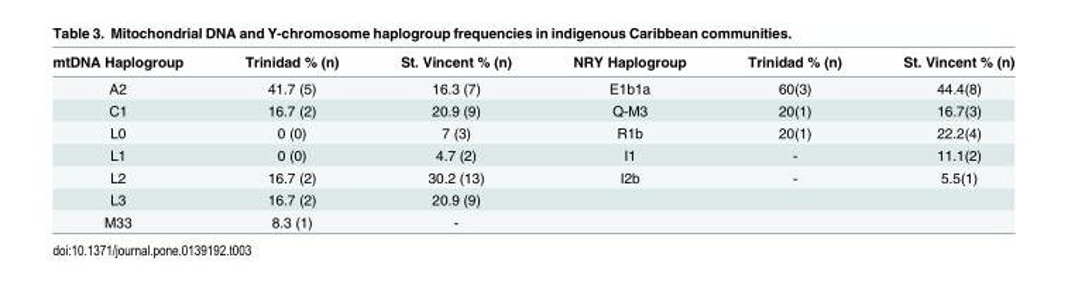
<table><thead><tr><td>mtDNA Haplogroup</td><td>Trinidad % (n)</td><td>St. Vincent % (n)</td><td>NRY Haplogroup</td><td>Trinidad % (n)</td><td>St. Vincent % (n)</td></tr></thead><tbody><tr><td>A2</td><td>41.7 (5)</td><td>16.3 (7)</td><td>E1b1a</td><td>60(3)</td><td>44.4(8)</td></tr><tr><td>C1</td><td>16.7 (2)</td><td>20.9 (9)</td><td>Q-M3</td><td>20(1)</td><td>16.7(3)</td></tr><tr><td>L0</td><td>0 (0)</td><td>7 (3)</td><td>R1b</td><td>20(1)</td><td>22.2(4)</td></tr><tr><td>L1</td><td>0 (0)</td><td>4.7 (2)</td><td>I1</td><td>-</td><td>11.1(2)</td></tr><tr><td>L2</td><td>16.7 (2)</td><td>30.2 (13)</td><td>I2b</td><td>-</td><td>5.5(1)</td></tr><tr><td>L3</td><td>16.7 (2)</td><td>20.9 (9)</td><td></td><td></td><td></td></tr><tr><td>M33</td><td>8.3 (1)</td><td>-</td><td></td><td></td><td></td></tr></tbody></table>